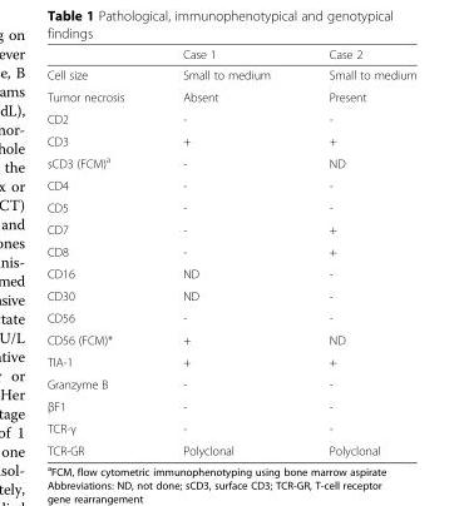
<table><thead><tr><td></td><td>Case 1</td><td>Case 2</td></tr></thead><tbody><tr><td>Cell size</td><td>Small to medium</td><td>Small to medium</td></tr><tr><td>Tumor necrosis</td><td>Absent</td><td>Present</td></tr><tr><td>CD2</td><td>-</td><td>-</td></tr><tr><td>CD3</td><td>+</td><td>+</td></tr><tr><td>sCD3 (FCM)<sup>a</sup></td><td>-</td><td>ND</td></tr><tr><td>CD4</td><td>-</td><td>-</td></tr><tr><td>CD5</td><td>-</td><td>-</td></tr><tr><td>CD7</td><td>-</td><td>+</td></tr><tr><td>CD8</td><td>-</td><td>+</td></tr><tr><td>CD16</td><td>ND</td><td>-</td></tr><tr><td>CD30</td><td>ND</td><td>-</td></tr><tr><td>CD56</td><td>-</td><td>-</td></tr><tr><td>CD56 (FCM)*</td><td>+</td><td>ND</td></tr><tr><td>TIA-1</td><td>+</td><td>+</td></tr><tr><td>Granzyme B</td><td>-</td><td>-</td></tr><tr><td>βF1</td><td>-</td><td>-</td></tr><tr><td>TCR-γ</td><td>-</td><td>-</td></tr><tr><td>TCR-GR</td><td>Polyclonal</td><td>Polyclonal</td></tr></tbody></table>